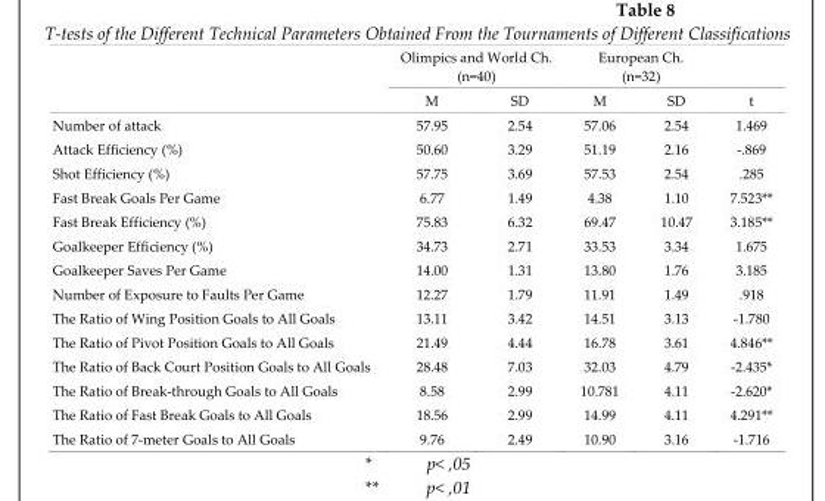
<table><thead><tr><td rowspan="2"></td><td colspan="2">Olimpics and World Ch. (n=40)</td><td colspan="2">European Ch. (n=32)</td><td rowspan="2">t</td></tr><tr><td>M</td><td>SD</td><td>M</td><td>SD</td></tr></thead><tbody><tr><td>Number of attack</td><td>57.95</td><td>2.54</td><td>57.06</td><td>2.54</td><td>1.469</td></tr><tr><td>Attack Efficiency (%)</td><td>50.60</td><td>3.29</td><td>51.19</td><td>2.16</td><td>-.869</td></tr><tr><td>Shot Efficiency (%)</td><td>57.75</td><td>3.69</td><td>57.53</td><td>2.54</td><td>.285</td></tr><tr><td>Fast Break Goals Per Game</td><td>6.77</td><td>1.49</td><td>4.38</td><td>1.10</td><td>7.523**</td></tr><tr><td>Fast Break Efficiency (%)</td><td>75.83</td><td>6.32</td><td>69.47</td><td>10.47</td><td>3.185**</td></tr><tr><td>Goalkeeper Efficiency (%)</td><td>34.73</td><td>2.71</td><td>33.53</td><td>3.34</td><td>1.675</td></tr><tr><td>Goalkeeper Saves Per Game</td><td>14.00</td><td>1.31</td><td>13.80</td><td>1.76</td><td>3.185</td></tr><tr><td>Number of Exposure to Faults Per Game</td><td>12.27</td><td>1.79</td><td>11.91</td><td>1.49</td><td>.918</td></tr><tr><td>The Ratio of Wing Position Goals to All Goals</td><td>13.11</td><td>3.42</td><td>14.51</td><td>3.13</td><td>-1.780</td></tr><tr><td>The Ratio of Pivot Position Goals to All Goals</td><td>21.49</td><td>4.44</td><td>16.78</td><td>3.61</td><td>4.846**</td></tr><tr><td>The Ratio of Back Court Position Goals to All Goals</td><td>28.48</td><td>7.03</td><td>32.03</td><td>4.79</td><td>-2.435*</td></tr><tr><td>The Ratio of Break-through Goals to All Goals</td><td>8.58</td><td>2.99</td><td>10.781</td><td>4.11</td><td>-2.620*</td></tr><tr><td>The Ratio of Fast Break Goals to All Goals</td><td>18.56</td><td>2.99</td><td>14.99</td><td>4.11</td><td>4.291**</td></tr><tr><td>The Ratio of 7-meter Goals to All Goals</td><td>9.76</td><td>2.49</td><td>10.90</td><td>3.16</td><td>-1.716</td></tr></tbody></table>